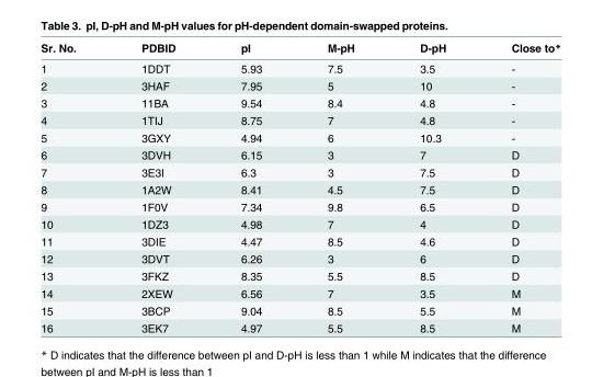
<table><thead><tr><td>Sr. No.</td><td>PDBID</td><td>pI</td><td>M-pH</td><td>D-pH</td><td>Close to*</td></tr></thead><tbody><tr><td>1</td><td>1DDT</td><td>5.93</td><td>7.5</td><td>3.5</td><td>-</td></tr><tr><td>2</td><td>3HAF</td><td>7.95</td><td>5</td><td>10</td><td>-</td></tr><tr><td>3</td><td>11BA</td><td>9.54</td><td>8.4</td><td>4.8</td><td>-</td></tr><tr><td>4</td><td>1TIJ</td><td>8.75</td><td>7</td><td>4.8</td><td>-</td></tr><tr><td>5</td><td>3GXY</td><td>4.94</td><td>6</td><td>10.3</td><td>-</td></tr><tr><td>6</td><td>3DVH</td><td>6.15</td><td>3</td><td>7</td><td>D</td></tr><tr><td>7</td><td>3E3I</td><td>6.3</td><td>3</td><td>7.5</td><td>D</td></tr><tr><td>8</td><td>1A2W</td><td>8.41</td><td>4.5</td><td>7.5</td><td>D</td></tr><tr><td>9</td><td>1F0V</td><td>7.34</td><td>9.8</td><td>6.5</td><td>D</td></tr><tr><td>10</td><td>1DZ3</td><td>4.98</td><td>7</td><td>4</td><td>D</td></tr><tr><td>11</td><td>3DIE</td><td>4.47</td><td>8.5</td><td>4.6</td><td>D</td></tr><tr><td>12</td><td>3DVT</td><td>6.26</td><td>3</td><td>6</td><td>D</td></tr><tr><td>13</td><td>3FKZ</td><td>8.35</td><td>5.5</td><td>8.5</td><td>D</td></tr><tr><td>14</td><td>2XEW</td><td>6.56</td><td>7</td><td>3.5</td><td>M</td></tr><tr><td>15</td><td>3BCP</td><td>9.04</td><td>8.5</td><td>5.5</td><td>M</td></tr><tr><td>16</td><td>3EK7</td><td>4.97</td><td>5.5</td><td>8.5</td><td>M</td></tr></tbody></table>